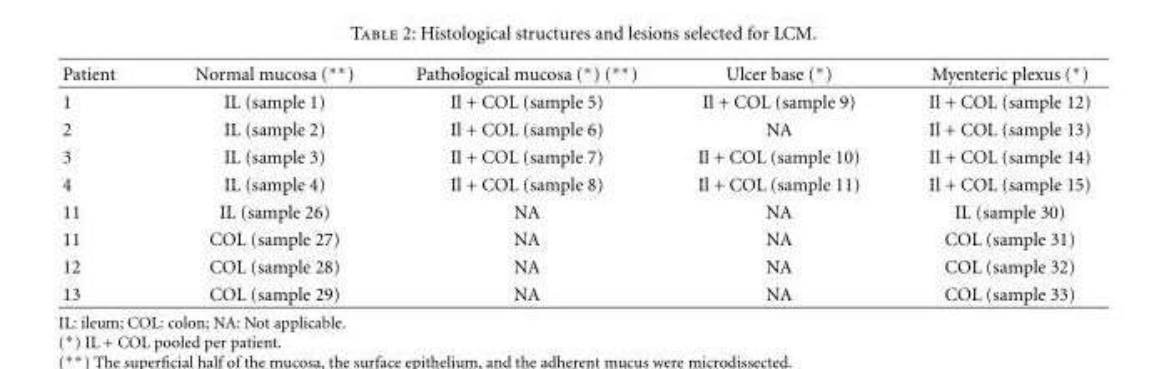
<table><thead><tr><td>Patient</td><td>Normal mucosa (∗∗)</td><td>Pathological mucosa (∗) (∗∗)</td><td>Ulcer base (∗)</td><td>Myenteric plexus (∗)</td></tr></thead><tbody><tr><td>1</td><td>IL (sample 1)</td><td>Il + COL (sample 5)</td><td>Il + COL (sample 9)</td><td>Il + COL (sample 12)</td></tr><tr><td>2</td><td>IL (sample 2)</td><td>Il + COL (sample 6)</td><td>NA</td><td>Il + COL (sample 13)</td></tr><tr><td>3</td><td>IL (sample 3)</td><td>Il + COL (sample 7)</td><td>Il + COL (sample 10)</td><td>Il + COL (sample 14)</td></tr><tr><td>4</td><td>IL (sample 4)</td><td>Il + COL (sample 8)</td><td>Il + COL (sample 11)</td><td>Il + COL (sample 15)</td></tr><tr><td>11</td><td>IL (sample 26)</td><td>NA</td><td>NA</td><td>IL (sample 30)</td></tr><tr><td>11</td><td>COL (sample 27)</td><td>NA</td><td>NA</td><td>COL (sample 31)</td></tr><tr><td>12</td><td>COL (sample 28)</td><td>NA</td><td>NA</td><td>COL (sample 32)</td></tr><tr><td>13</td><td>COL (sample 29)</td><td>NA</td><td>NA</td><td>COL (sample 33)</td></tr></tbody></table>